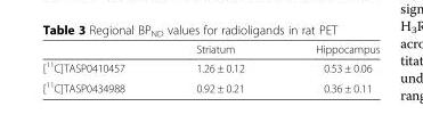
<table><thead><tr><td></td><td>Striatum</td><td>Hippocampus</td></tr></thead><tbody><tr><td>[<sup>11</sup>C]TASP0410457</td><td>1.26 ± 0.12</td><td>0.53 ± 0.06</td></tr><tr><td>[<sup>11</sup>C]TASP0434988</td><td>0.92 ± 0.21</td><td>0.36 ± 0.11</td></tr></tbody></table>